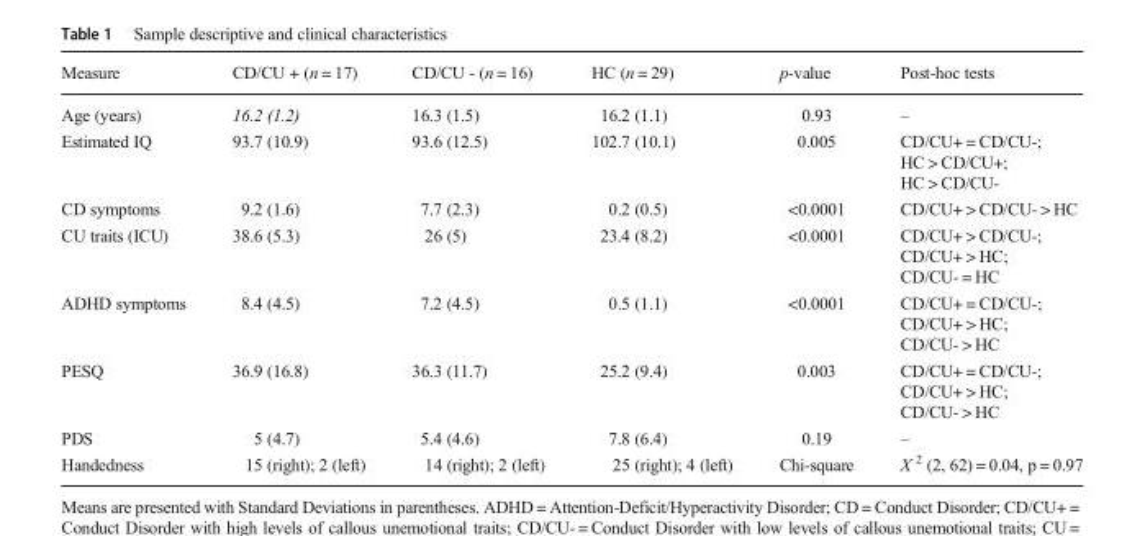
<table><thead><tr><td>Measure</td><td>CD/CU + (n = 17)</td><td>CD/CU - (n = 16)</td><td>HC (n = 29)</td><td>p-value</td><td>Post-hoc tests</td></tr></thead><tbody><tr><td>Age (years)</td><td>16.2 (1.2)</td><td>16.3 (1.5)</td><td>16.2 (1.1)</td><td>0.93</td><td>–</td></tr><tr><td>Estimated IQ</td><td>93.7 (10.9)</td><td>93.6 (12.5)</td><td>102.7 (10.1)</td><td>0.005</td><td>CD/CU+ = CD/CU-; HC &gt; CD/CU+; HC &gt; CD/CU-</td></tr><tr><td>CD symptoms</td><td>9.2 (1.6)</td><td>7.7 (2.3)</td><td>0.2 (0.5)</td><td>&lt;0.0001</td><td>CD/CU+ &gt; CD/CU- &gt; HC</td></tr><tr><td>CU traits (ICU)</td><td>38.6 (5.3)</td><td>26 (5)</td><td>23.4 (8.2)</td><td>&lt;0.0001</td><td>CD/CU+ &gt; CD/CU-; CD/CU+ &gt; HC; CD/CU- = HC</td></tr><tr><td>ADHD symptoms</td><td>8.4 (4.5)</td><td>7.2 (4.5)</td><td>0.5 (1.1)</td><td>&lt;0.0001</td><td>CD/CU+ = CD/CU-; CD/CU+ &gt; HC; CD/CU- &gt; HC</td></tr><tr><td>PESQ</td><td>36.9 (16.8)</td><td>36.3 (11.7)</td><td>25.2 (9.4)</td><td>0.003</td><td>CD/CU+ = CD/CU-; CD/CU+ &gt; HC; CD/CU- &gt; HC</td></tr><tr><td>PDS</td><td>5 (4.7)</td><td>5.4 (4.6)</td><td>7.8 (6.4)</td><td>0.19</td><td>–</td></tr><tr><td>Handedness</td><td>15 (right); 2 (left)</td><td>14 (right); 2 (left)</td><td>25 (right); 4 (left)</td><td>Chi-square</td><td>X <sup>2</sup> (2, 62) = 0.04, p = 0.97</td></tr></tbody></table>